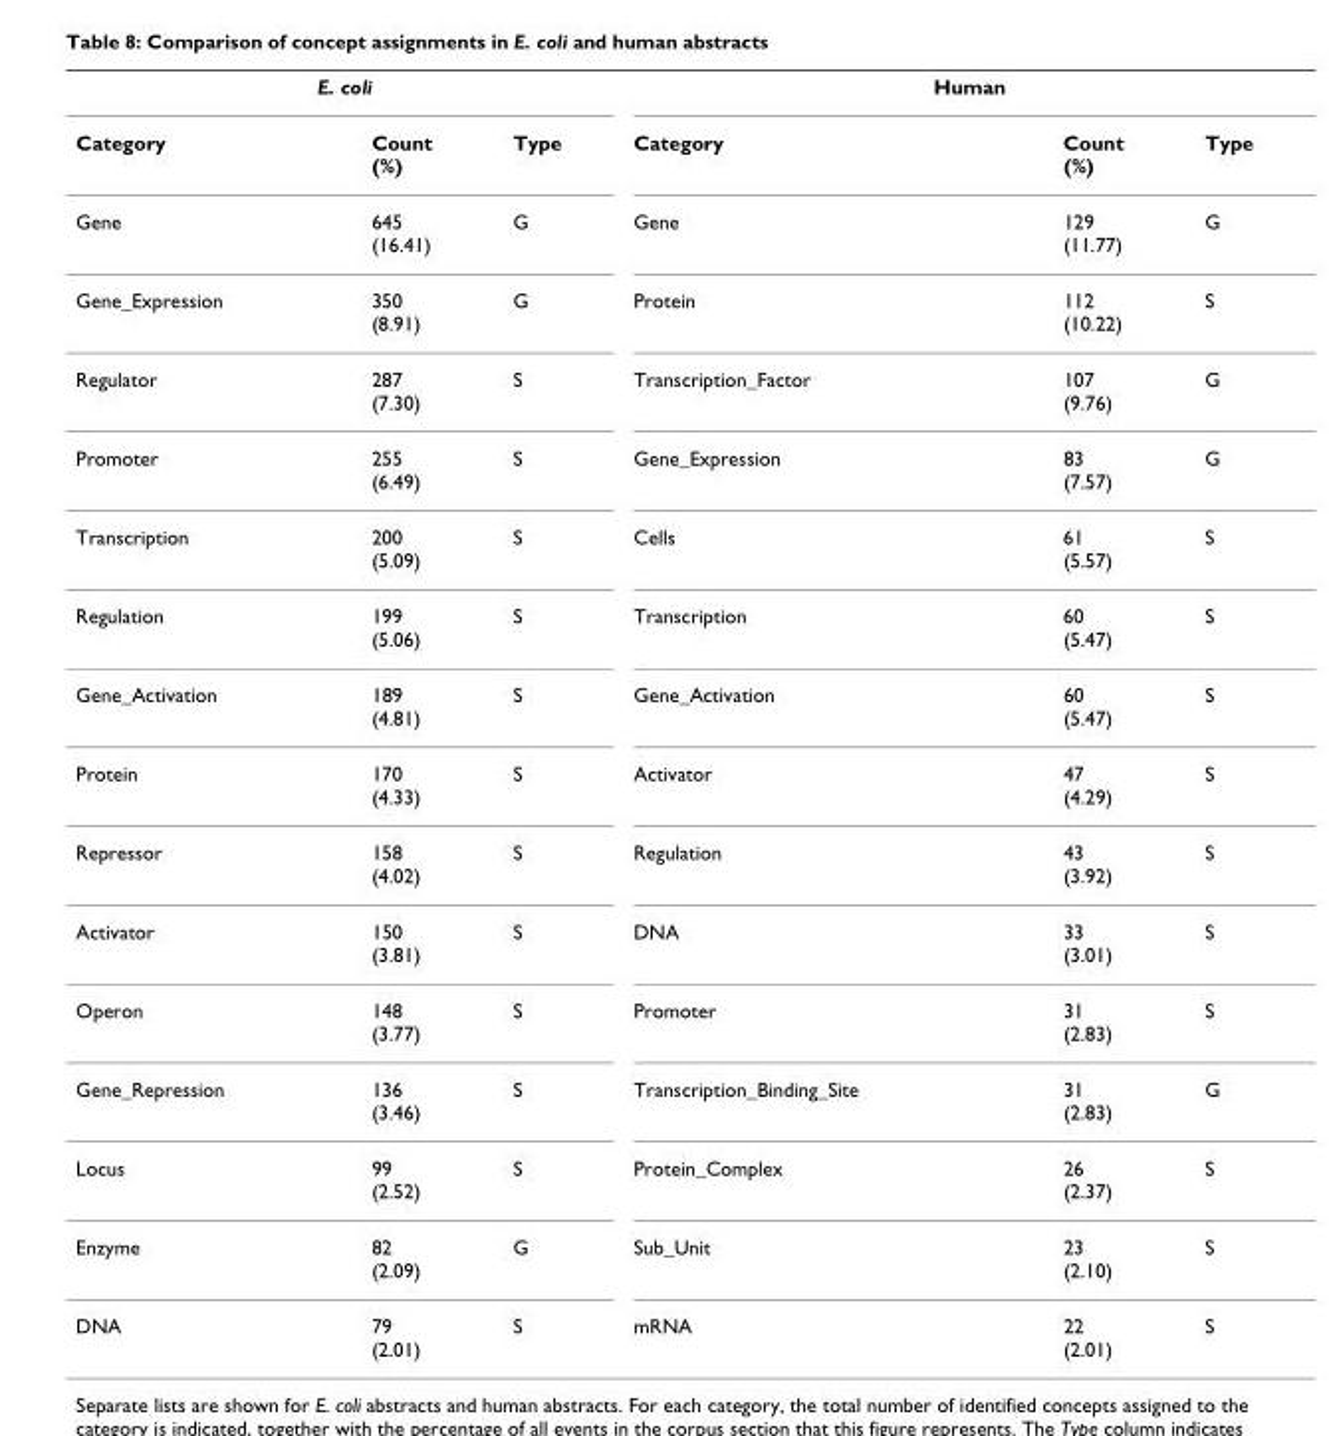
<table><tbody><tr><td colspan="3">E. coli</td><td colspan="3">Human</td></tr><tr><td>Category</td><td>Count (%)</td><td>Type</td><td>Category</td><td>Count (%)</td><td>Type</td></tr><tr><td>Gene</td><td>645 (16.41)</td><td>G</td><td>Gene</td><td>129 (11.77)</td><td>G</td></tr><tr><td>Gene_Expression</td><td>350 (8.91)</td><td>G</td><td>Protein</td><td>112 (10.22)</td><td>S</td></tr><tr><td>Regulator</td><td>287 (7.30)</td><td>S</td><td>Transcription_Factor</td><td>107 (9.76)</td><td>G</td></tr><tr><td>Promoter</td><td>255 (6.49)</td><td>S</td><td>Gene_Expression</td><td>83 (7.57)</td><td>G</td></tr><tr><td>Transcription</td><td>200 (5.09)</td><td>S</td><td>Cells</td><td>61 (5.57)</td><td>S</td></tr><tr><td>Regulation</td><td>199 (5.06)</td><td>S</td><td>Transcription</td><td>60 (5.47)</td><td>S</td></tr><tr><td>Gene_Activation</td><td>189 (4.81)</td><td>S</td><td>Gene_Activation</td><td>60 (5.47)</td><td>S</td></tr><tr><td>Protein</td><td>170 (4.33)</td><td>S</td><td>Activator</td><td>47 (4.29)</td><td>S</td></tr><tr><td>Repressor</td><td>158 (4.02)</td><td>S</td><td>Regulation</td><td>43 (3.92)</td><td>S</td></tr><tr><td>Activator</td><td>150 (3.81)</td><td>S</td><td>DNA</td><td>33 (3.01)</td><td>S</td></tr><tr><td>Operon</td><td>148 (3.77)</td><td>S</td><td>Promoter</td><td>31 (2.83)</td><td>S</td></tr><tr><td>Gene_Repression</td><td>136 (3.46)</td><td>S</td><td>Transcription_Binding_Site</td><td>31 (2.83)</td><td>G</td></tr><tr><td>Locus</td><td>99 (2.52)</td><td>S</td><td>Protein_Complex</td><td>26 (2.37)</td><td>S</td></tr><tr><td>Enzyme</td><td>82 (2.09)</td><td>G</td><td>Sub_Unit</td><td>23 (2.10)</td><td>S</td></tr><tr><td>DNA</td><td>79 (2.01)</td><td>S</td><td>mRNA</td><td>22 (2.01)</td><td>S</td></tr></tbody></table>